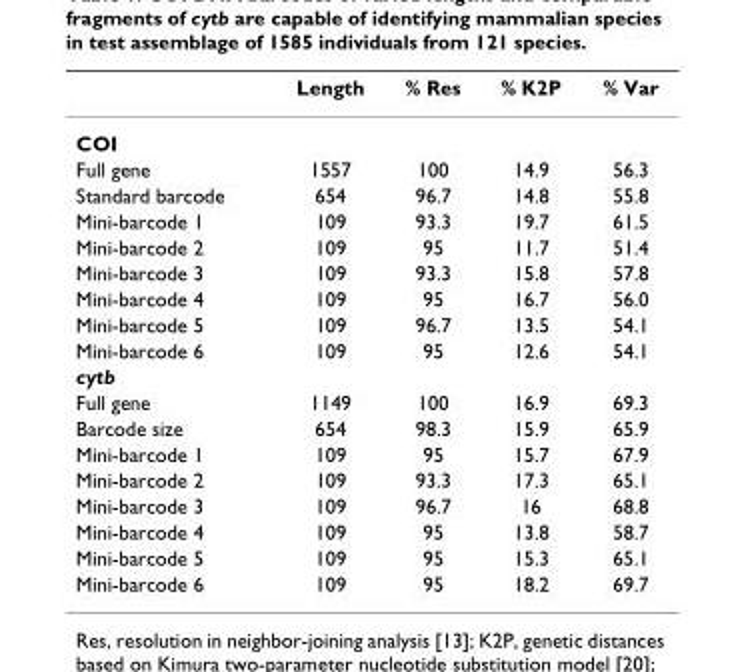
<table><thead><tr><td></td><td>Length</td><td>% Res</td><td>% K2P</td><td>% Var</td></tr></thead><tbody><tr><td colspan="5">COI</td></tr><tr><td>Full gene</td><td>1557</td><td>100</td><td>14.9</td><td>56.3</td></tr><tr><td>Standard barcode</td><td>654</td><td>96.7</td><td>14.8</td><td>55.8</td></tr><tr><td>Mini-barcode 1</td><td>109</td><td>93.3</td><td>19.7</td><td>61.5</td></tr><tr><td>Mini-barcode 2</td><td>109</td><td>95</td><td>11.7</td><td>51.4</td></tr><tr><td>Mini-barcode 3</td><td>109</td><td>93.3</td><td>15.8</td><td>57.8</td></tr><tr><td>Mini-barcode 4</td><td>109</td><td>95</td><td>16.7</td><td>56.0</td></tr><tr><td>Mini-barcode 5</td><td>109</td><td>96.7</td><td>13.5</td><td>54.1</td></tr><tr><td>Mini-barcode 6</td><td>109</td><td>95</td><td>12.6</td><td>54.1</td></tr><tr><td colspan="5">cytb</td></tr><tr><td>Full gene</td><td>1149</td><td>100</td><td>16.9</td><td>69.3</td></tr><tr><td>Barcode size</td><td>654</td><td>98.3</td><td>15.9</td><td>65.9</td></tr><tr><td>Mini-barcode 1</td><td>109</td><td>95</td><td>15.7</td><td>67.9</td></tr><tr><td>Mini-barcode 2</td><td>109</td><td>93.3</td><td>17.3</td><td>65.1</td></tr><tr><td>Mini-barcode 3</td><td>109</td><td>96.7</td><td>16</td><td>68.8</td></tr><tr><td>Mini-barcode 4</td><td>109</td><td>95</td><td>13.8</td><td>58.7</td></tr><tr><td>Mini-barcode 5</td><td>109</td><td>95</td><td>15.3</td><td>65.1</td></tr><tr><td>Mini-barcode 6</td><td>109</td><td>95</td><td>18.2</td><td>69.7</td></tr></tbody></table>